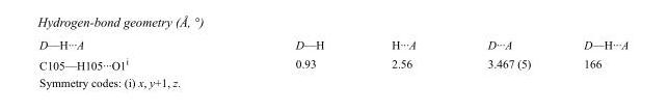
<table><tbody><tr><td>D—H···A</td><td>D—H</td><td>H···A</td><td>D···A</td><td>D—H···A</td></tr><tr><td>C105—H105···O1<sup>i</sup></td><td>0.93</td><td>2.56</td><td>3.467 (5)</td><td>166</td></tr></tbody></table>